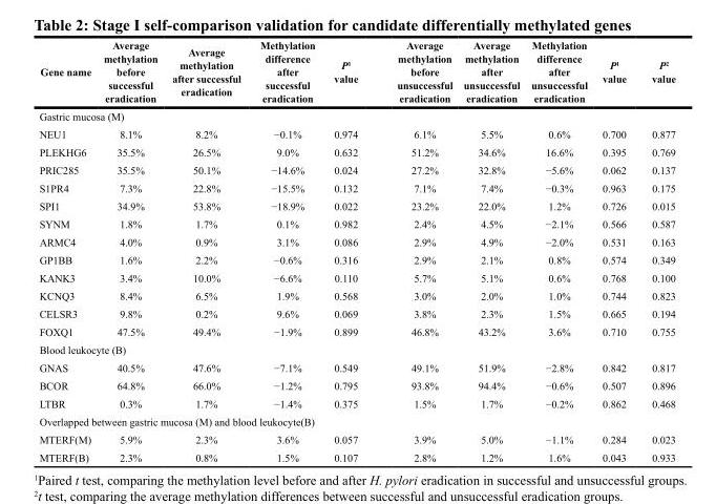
<table><thead><tr><td>Gene name</td><td>Average methylation before successful eradication</td><td>Average methylation after successful eradication</td><td>Methylation difference after successful eradication</td><td>P<sup>1</sup> value</td><td>Average methylation before unsuccessful eradication</td><td>Average methylation after unsuccessful eradication</td><td>Methylation difference after unsuccessful eradication</td><td>P<sup>1</sup> value</td><td>P<sup>2</sup> value</td></tr></thead><tbody><tr><td colspan="10">Gastric mucosa (M)</td></tr><tr><td>NEU1</td><td>8.1%</td><td>8.2%</td><td>−0.1%</td><td>0.974</td><td>6.1%</td><td>5.5%</td><td>0.6%</td><td>0.700</td><td>0.877</td></tr><tr><td>PLEKHG6</td><td>35.5%</td><td>26.5%</td><td>9.0%</td><td>0.632</td><td>51.2%</td><td>34.6%</td><td>16.6%</td><td>0.395</td><td>0.769</td></tr><tr><td>PRIC285</td><td>35.5%</td><td>50.1%</td><td>−14.6%</td><td>0.024</td><td>27.2%</td><td>32.8%</td><td>−5.6%</td><td>0.062</td><td>0.137</td></tr><tr><td>S1PR4</td><td>7.3%</td><td>22.8%</td><td>−15.5%</td><td>0.132</td><td>7.1%</td><td>7.4%</td><td>−0.3%</td><td>0.963</td><td>0.175</td></tr><tr><td>SPI1</td><td>34.9%</td><td>53.8%</td><td>−18.9%</td><td>0.022</td><td>23.2%</td><td>22.0%</td><td>1.2%</td><td>0.726</td><td>0.015</td></tr><tr><td>SYNM</td><td>1.8%</td><td>1.7%</td><td>0.1%</td><td>0.982</td><td>2.4%</td><td>4.5%</td><td>−2.1%</td><td>0.566</td><td>0.587</td></tr><tr><td>ARMC4</td><td>4.0%</td><td>0.9%</td><td>3.1%</td><td>0.086</td><td>2.9%</td><td>4.9%</td><td>−2.0%</td><td>0.531</td><td>0.163</td></tr><tr><td>GP1BB</td><td>1.6%</td><td>2.2%</td><td>−0.6%</td><td>0.316</td><td>2.9%</td><td>2.1%</td><td>0.8%</td><td>0.574</td><td>0.349</td></tr><tr><td>KANK3</td><td>3.4%</td><td>10.0%</td><td>−6.6%</td><td>0.110</td><td>5.7%</td><td>5.1%</td><td>0.6%</td><td>0.768</td><td>0.100</td></tr><tr><td>KCNQ3</td><td>8.4%</td><td>6.5%</td><td>1.9%</td><td>0.568</td><td>3.0%</td><td>2.0%</td><td>1.0%</td><td>0.744</td><td>0.823</td></tr><tr><td>CELSR3</td><td>9.8%</td><td>0.2%</td><td>9.6%</td><td>0.069</td><td>3.8%</td><td>2.3%</td><td>1.5%</td><td>0.665</td><td>0.194</td></tr><tr><td>FOXQ1</td><td>47.5%</td><td>49.4%</td><td>−1.9%</td><td>0.899</td><td>46.8%</td><td>43.2%</td><td>3.6%</td><td>0.710</td><td>0.755</td></tr><tr><td colspan="10">Blood leukocyte (B)</td></tr><tr><td>GNAS</td><td>40.5%</td><td>47.6%</td><td>−7.1%</td><td>0.549</td><td>49.1%</td><td>51.9%</td><td>−2.8%</td><td>0.842</td><td>0.817</td></tr><tr><td>BCOR</td><td>64.8%</td><td>66.0%</td><td>−1.2%</td><td>0.795</td><td>93.8%</td><td>94.4%</td><td>−0.6%</td><td>0.507</td><td>0.896</td></tr><tr><td>LTBR</td><td>0.3%</td><td>1.7%</td><td>−1.4%</td><td>0.375</td><td>1.5%</td><td>1.7%</td><td>−0.2%</td><td>0.862</td><td>0.468</td></tr><tr><td colspan="10">Overlapped between gastric mucosa (M) and blood leukocyte(B)</td></tr><tr><td>MTERF(M)</td><td>5.9%</td><td>2.3%</td><td>3.6%</td><td>0.057</td><td>3.9%</td><td>5.0%</td><td>−1.1%</td><td>0.284</td><td>0.023</td></tr><tr><td>MTERF(B)</td><td>2.3%</td><td>0.8%</td><td>1.5%</td><td>0.107</td><td>2.8%</td><td>1.2%</td><td>1.6%</td><td>0.043</td><td>0.933</td></tr></tbody></table>